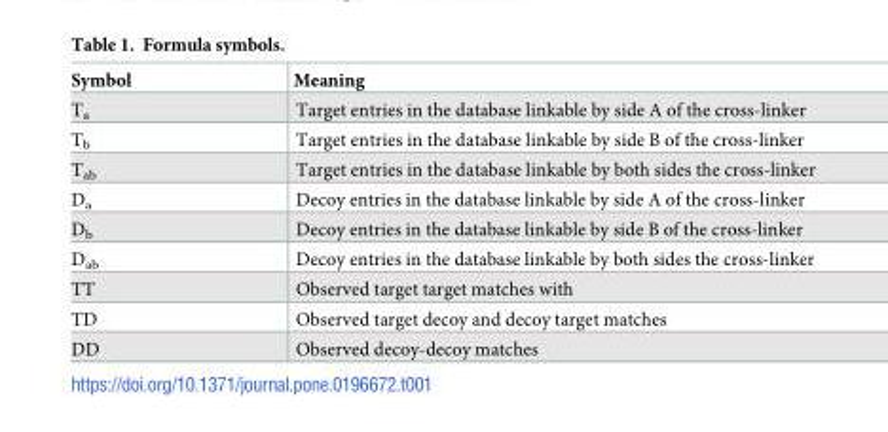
<table><thead><tr><td>Symbol</td><td>Meaning</td></tr></thead><tbody><tr><td>T<sub>a</sub></td><td>Target entries in the database linkable by side A of the cross-linker</td></tr><tr><td>T<sub>b</sub></td><td>Target entries in the database linkable by side B of the cross-linker</td></tr><tr><td>T<sub>ab</sub></td><td>Target entries in the database linkable by both sides the cross-linker</td></tr><tr><td>D<sub>a</sub></td><td>Decoy entries in the database linkable by side A of the cross-linker</td></tr><tr><td>D<sub>b</sub></td><td>Decoy entries in the database linkable by side B of the cross-linker</td></tr><tr><td>D<sub>ab</sub></td><td>Decoy entries in the database linkable by both sides the cross-linker</td></tr><tr><td>TT</td><td>Observed target target matches with</td></tr><tr><td>TD</td><td>Observed target decoy and decoy target matches</td></tr><tr><td>DD</td><td>Observed decoy-decoy matches</td></tr></tbody></table>